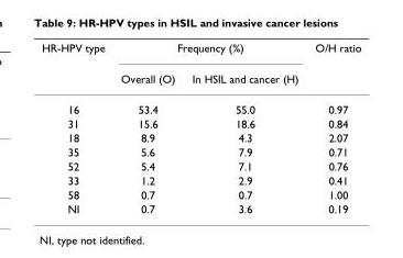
<table><thead><tr><td rowspan="2">HR-HPV type</td><td colspan="2">Frequency (%)</td><td rowspan="2">O/H ratio</td></tr><tr><td>Overall (O)</td><td>In HSIL and cancer (H)</td></tr></thead><tbody><tr><td>16</td><td>53.4</td><td>55.0</td><td>0.97</td></tr><tr><td>31</td><td>15.6</td><td>18.6</td><td>0.84</td></tr><tr><td>18</td><td>8.9</td><td>4.3</td><td>2.07</td></tr><tr><td>35</td><td>5.6</td><td>7.9</td><td>0.71</td></tr><tr><td>52</td><td>5.4</td><td>7.1</td><td>0.76</td></tr><tr><td>33</td><td>1.2</td><td>2.9</td><td>0.41</td></tr><tr><td>58</td><td>0.7</td><td>0.7</td><td>1.00</td></tr><tr><td>NI</td><td>0.7</td><td>3.6</td><td>0.19</td></tr></tbody></table>